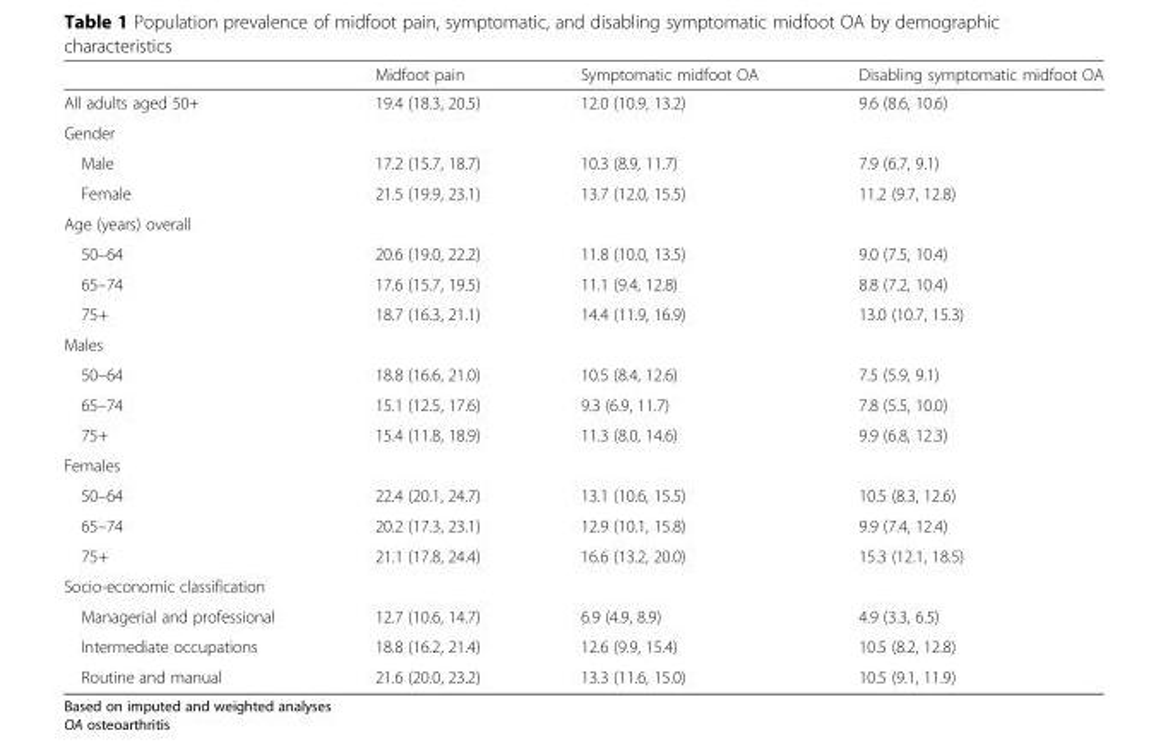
<table><thead><tr><td></td><td>Midfoot pain</td><td>Symptomatic midfoot OA</td><td>Disabling symptomatic midfoot OA</td></tr></thead><tbody><tr><td>All adults aged 50+</td><td>19.4 (18.3, 20.5)</td><td>12.0 (10.9, 13.2)</td><td>9.6 (8.6, 10.6)</td></tr><tr><td colspan="4">Gender</td></tr><tr><td>Male</td><td>17.2 (15.7, 18.7)</td><td>10.3 (8.9, 11.7)</td><td>7.9 (6.7, 9.1)</td></tr><tr><td>Female</td><td>21.5 (19.9, 23.1)</td><td>13.7 (12.0, 15.5)</td><td>11.2 (9.7, 12.8)</td></tr><tr><td colspan="4">Age (years) overall</td></tr><tr><td>50–64</td><td>20.6 (19.0, 22.2)</td><td>11.8 (10.0, 13.5)</td><td>9.0 (7.5, 10.4)</td></tr><tr><td>65–74</td><td>17.6 (15.7, 19.5)</td><td>11.1 (9.4, 12.8)</td><td>8.8 (7.2, 10.4)</td></tr><tr><td>75+</td><td>18.7 (16.3, 21.1)</td><td>14.4 (11.9, 16.9)</td><td>13.0 (10.7, 15.3)</td></tr><tr><td colspan="4">Males</td></tr><tr><td>50–64</td><td>18.8 (16.6, 21.0)</td><td>10.5 (8.4, 12.6)</td><td>7.5 (5.9, 9.1)</td></tr><tr><td>65–74</td><td>15.1 (12.5, 17.6)</td><td>9.3 (6.9, 11.7)</td><td>7.8 (5.5, 10.0)</td></tr><tr><td>75+</td><td>15.4 (11.8, 18.9)</td><td>11.3 (8.0, 14.6)</td><td>9.9 (6.8, 12.3)</td></tr><tr><td colspan="4">Females</td></tr><tr><td>50–64</td><td>22.4 (20.1, 24.7)</td><td>13.1 (10.6, 15.5)</td><td>10.5 (8.3, 12.6)</td></tr><tr><td>65–74</td><td>20.2 (17.3, 23.1)</td><td>12.9 (10.1, 15.8)</td><td>9.9 (7.4, 12.4)</td></tr><tr><td>75+</td><td>21.1 (17.8, 24.4)</td><td>16.6 (13.2, 20.0)</td><td>15.3 (12.1, 18.5)</td></tr><tr><td colspan="4">Socio-economic classification</td></tr><tr><td>Managerial and professional</td><td>12.7 (10.6, 14.7)</td><td>6.9 (4.9, 8.9)</td><td>4.9 (3.3, 6.5)</td></tr><tr><td>Intermediate occupations</td><td>18.8 (16.2, 21.4)</td><td>12.6 (9.9, 15.4)</td><td>10.5 (8.2, 12.8)</td></tr><tr><td>Routine and manual</td><td>21.6 (20.0, 23.2)</td><td>13.3 (11.6, 15.0)</td><td>10.5 (9.1, 11.9)</td></tr></tbody></table>